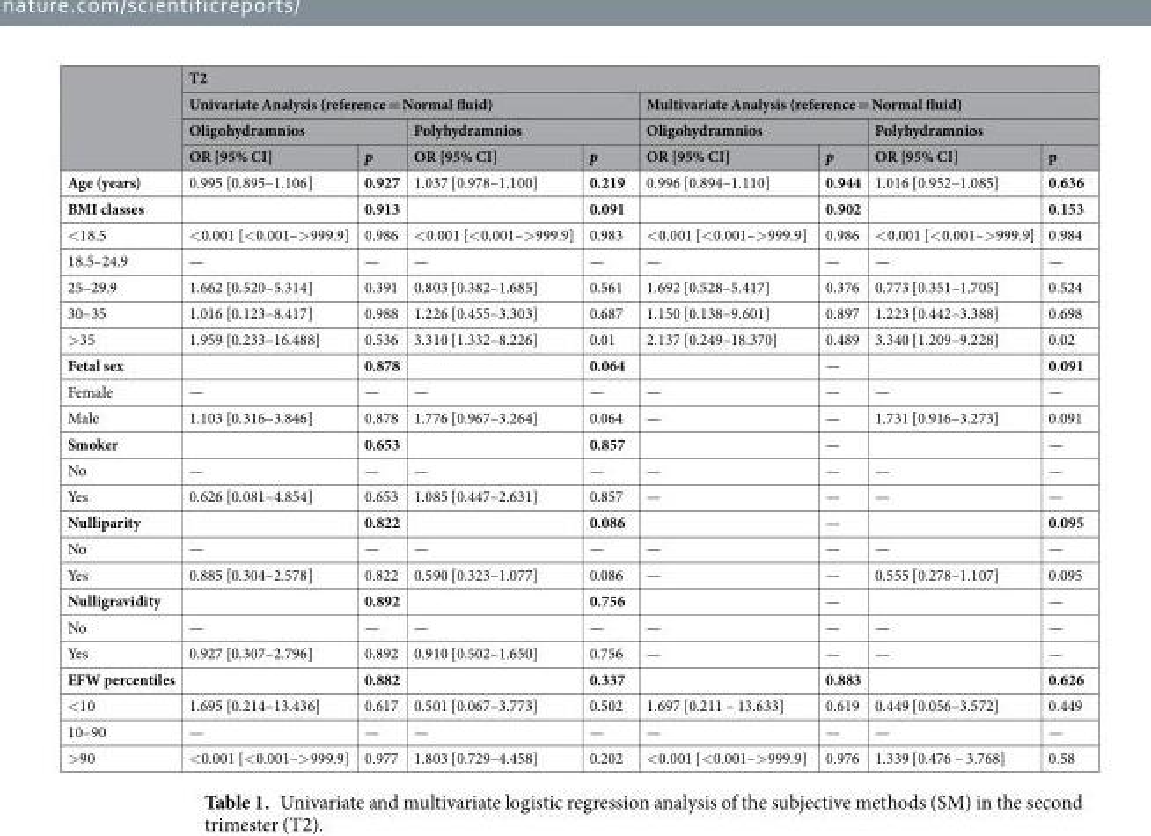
<table><thead><tr><td rowspan="4"></td><td colspan="8">T2</td></tr><tr><td colspan="4">Univariate Analysis (reference = Normal fluid)</td><td colspan="4">Multivariate Analysis (reference = Normal fluid)</td></tr><tr><td colspan="2">Oligohydramnios</td><td colspan="2">Polyhydramnios</td><td colspan="2">Oligohydramnios</td><td colspan="2">Polyhydramnios</td></tr><tr><td>OR [95% CI]</td><td>p</td><td>OR [95% CI]</td><td>p</td><td>OR [95% CI]</td><td>p</td><td>OR [95% CI]</td><td>p</td></tr></thead><tbody><tr><td>Age (years)</td><td>0.995 [0.895–1.106]</td><td>0.927</td><td>1.037 [0.978–1.100]</td><td>0.219</td><td>0.996 [0.894–1.110]</td><td>0.944</td><td>1.016 [0.952–1.085]</td><td>0.636</td></tr><tr><td>BMI classes</td><td></td><td>0.913</td><td></td><td>0.091</td><td></td><td>0.902</td><td></td><td>0.153</td></tr><tr><td>&lt;18.5</td><td>&lt;0.001 [&lt;0.001–&gt;999.9]</td><td>0.986</td><td>&lt;0.001 [&lt;0.001–&gt;999.9]</td><td>0.983</td><td>&lt;0.001 [&lt;0.001–&gt;999.9]</td><td>0.986</td><td>&lt;0.001 [&lt;0.001–&gt;999.9]</td><td>0.984</td></tr><tr><td>18.5–24.9</td><td>—</td><td>—</td><td>—</td><td>—</td><td>—</td><td>—</td><td>—</td><td>—</td></tr><tr><td>25–29.9</td><td>1.662 [0.520–5.314]</td><td>0.391</td><td>0.803 [0.382–1.685]</td><td>0.561</td><td>1.692 [0.528–5.417]</td><td>0.376</td><td>0.773 [0.351–1.705]</td><td>0.524</td></tr><tr><td>30–35</td><td>1.016 [0.123–8.417]</td><td>0.988</td><td>1.226 [0.455–3.303]</td><td>0.687</td><td>1.150 [0.138–9.601]</td><td>0.897</td><td>1.223 [0.442–3.388]</td><td>0.698</td></tr><tr><td>&gt;35</td><td>1.959 [0.233–16.488]</td><td>0.536</td><td>3.310 [1.332–8.226]</td><td>0.01</td><td>2.137 [0.249–18.370]</td><td>0.489</td><td>3.340 [1.209–9.228]</td><td>0.02</td></tr><tr><td>Fetal sex</td><td></td><td>0.878</td><td></td><td>0.064</td><td></td><td>—</td><td></td><td>0.091</td></tr><tr><td>Female</td><td>—</td><td>—</td><td>—</td><td>—</td><td>—</td><td>—</td><td>—</td><td>—</td></tr><tr><td>Male</td><td>1.103 [0.316–3.846]</td><td>0.878</td><td>1.776 [0.967–3.264]</td><td>0.064</td><td>—</td><td>—</td><td>1.731 [0.916–3.273]</td><td>0.091</td></tr><tr><td>Smoker</td><td></td><td>0.653</td><td></td><td>0.857</td><td></td><td>—</td><td></td><td>—</td></tr><tr><td>No</td><td>—</td><td>—</td><td>—</td><td>—</td><td>—</td><td>—</td><td>—</td><td>—</td></tr><tr><td>Yes</td><td>0.626 [0.081–4.854]</td><td>0.653</td><td>1.085 [0.447–2.631]</td><td>0.857</td><td>—</td><td>—</td><td>—</td><td>—</td></tr><tr><td>Nulliparity</td><td></td><td>0.822</td><td></td><td>0.086</td><td></td><td>—</td><td></td><td>0.095</td></tr><tr><td>No</td><td>—</td><td>—</td><td>—</td><td>—</td><td>—</td><td>—</td><td>—</td><td>—</td></tr><tr><td>Yes</td><td>0.885 [0.304–2.578]</td><td>0.822</td><td>0.590 [0.323–1.077]</td><td>0.086</td><td>—</td><td>—</td><td>0.555 [0.278–1.107]</td><td>0.095</td></tr><tr><td>Nulligravidity</td><td></td><td>0.892</td><td></td><td>0.756</td><td></td><td>—</td><td></td><td>—</td></tr><tr><td>No</td><td>—</td><td>—</td><td>—</td><td>—</td><td>—</td><td>—</td><td>—</td><td>—</td></tr><tr><td>Yes</td><td>0.927 [0.307–2.796]</td><td>0.892</td><td>0.910 [0.502–1.650]</td><td>0.756</td><td>—</td><td>—</td><td>—</td><td>—</td></tr><tr><td>EFW percentiles</td><td></td><td>0.882</td><td></td><td>0.337</td><td></td><td>0.883</td><td></td><td>0.626</td></tr><tr><td>&lt;10</td><td>1.695 [0.214–13.436]</td><td>0.617</td><td>0.501 [0.067–3.773]</td><td>0.502</td><td>1.697 [0.211 – 13.633]</td><td>0.619</td><td>0.449 [0.056–3.572]</td><td>0.449</td></tr><tr><td>10–90</td><td>—</td><td>—</td><td>—</td><td>—</td><td>—</td><td>—</td><td>—</td><td>—</td></tr><tr><td>&gt;90</td><td>&lt;0.001 [&lt;0.001–&gt;999.9]</td><td>0.977</td><td>1.803 [0.729–4.458]</td><td>0.202</td><td>&lt;0.001 [&lt;0.001–&gt;999.9]</td><td>0.976</td><td>1.339 [0.476 – 3.768]</td><td>0.58</td></tr></tbody></table>